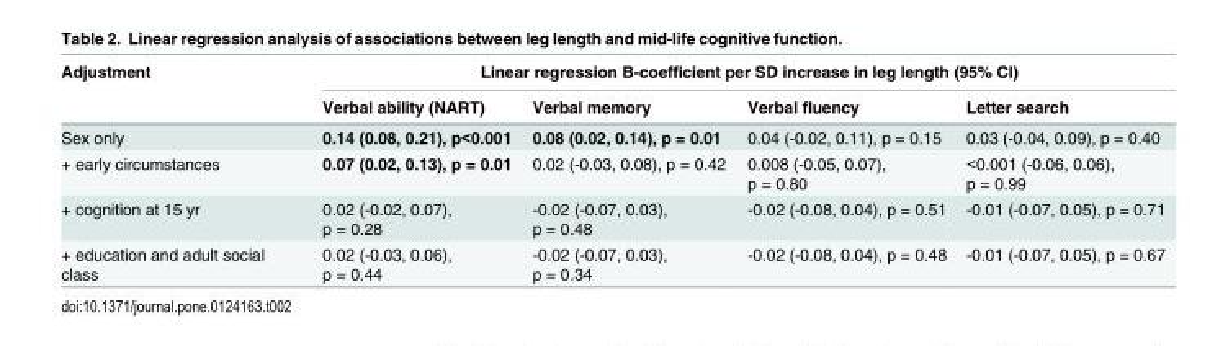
<table><thead><tr><td rowspan="2">Adjustment</td><td colspan="4">Linear regression B-coefficient per SD increase in leg length (95% CI)</td></tr><tr><td>Verbal ability (NART)</td><td>Verbal memory</td><td>Verbal fluency</td><td>Letter search</td></tr></thead><tbody><tr><td>Sex only</td><td>0.14 (0.08, 0.21), p&lt;0.001</td><td>0.08 (0.02, 0.14), p = 0.01</td><td>0.04 (-0.02, 0.11), p = 0.15</td><td>0.03 (-0.04, 0.09), p = 0.40</td></tr><tr><td>+ early circumstances</td><td>0.07 (0.02, 0.13), p = 0.01</td><td>0.02 (-0.03, 0.08), p = 0.42</td><td>0.008 (-0.05, 0.07), p = 0.80</td><td>&lt;0.001 (-0.06, 0.06), p = 0.99</td></tr><tr><td>+ cognition at 15 yr</td><td>0.02 (-0.02, 0.07), p = 0.28</td><td>-0.02 (-0.07, 0.03), p = 0.48</td><td>-0.02 (-0.08, 0.04), p = 0.51</td><td>-0.01 (-0.07, 0.05), p = 0.71</td></tr><tr><td>+ education and adult social class</td><td>0.02 (-0.03, 0.06), p = 0.44</td><td>-0.02 (-0.07, 0.03), p = 0.34</td><td>-0.02 (-0.08, 0.04), p = 0.48</td><td>-0.01 (-0.07, 0.05), p = 0.67</td></tr></tbody></table>